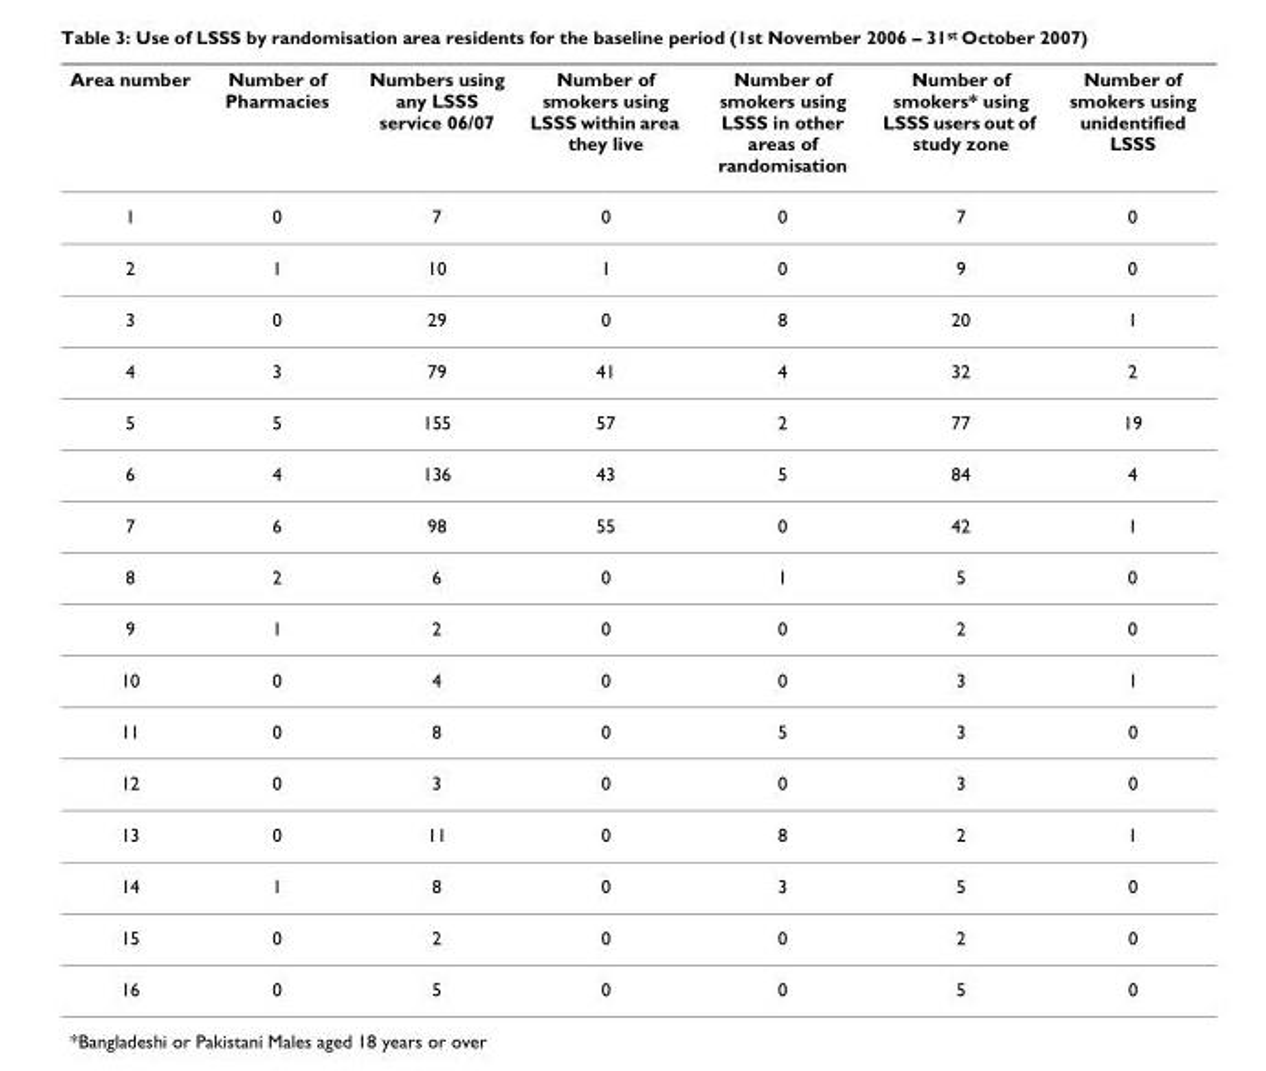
<table><thead><tr><td>Area number</td><td>Number of Pharmacies</td><td>Numbers using any LSSS service 06/07</td><td>Number of smokers using LSSS within area they live</td><td>Number of smokers using LSSS in other areas of randomisation</td><td>Number of smokers* using LSSS users out of study zone</td><td>Number of smokers using unidentified LSSS</td></tr></thead><tbody><tr><td>1</td><td>0</td><td>7</td><td>0</td><td>0</td><td>7</td><td>0</td></tr><tr><td>2</td><td>1</td><td>10</td><td>1</td><td>0</td><td>9</td><td>0</td></tr><tr><td>3</td><td>0</td><td>29</td><td>0</td><td>8</td><td>20</td><td>1</td></tr><tr><td>4</td><td>3</td><td>79</td><td>41</td><td>4</td><td>32</td><td>2</td></tr><tr><td>5</td><td>5</td><td>155</td><td>57</td><td>2</td><td>77</td><td>19</td></tr><tr><td>6</td><td>4</td><td>136</td><td>43</td><td>5</td><td>84</td><td>4</td></tr><tr><td>7</td><td>6</td><td>98</td><td>55</td><td>0</td><td>42</td><td>1</td></tr><tr><td>8</td><td>2</td><td>6</td><td>0</td><td>1</td><td>5</td><td>0</td></tr><tr><td>9</td><td>1</td><td>2</td><td>0</td><td>0</td><td>2</td><td>0</td></tr><tr><td>10</td><td>0</td><td>4</td><td>0</td><td>0</td><td>3</td><td>1</td></tr><tr><td>11</td><td>0</td><td>8</td><td>0</td><td>5</td><td>3</td><td>0</td></tr><tr><td>12</td><td>0</td><td>3</td><td>0</td><td>0</td><td>3</td><td>0</td></tr><tr><td>13</td><td>0</td><td>11</td><td>0</td><td>8</td><td>2</td><td>1</td></tr><tr><td>14</td><td>1</td><td>8</td><td>0</td><td>3</td><td>5</td><td>0</td></tr><tr><td>15</td><td>0</td><td>2</td><td>0</td><td>0</td><td>2</td><td>0</td></tr><tr><td>16</td><td>0</td><td>5</td><td>0</td><td>0</td><td>5</td><td>0</td></tr></tbody></table>